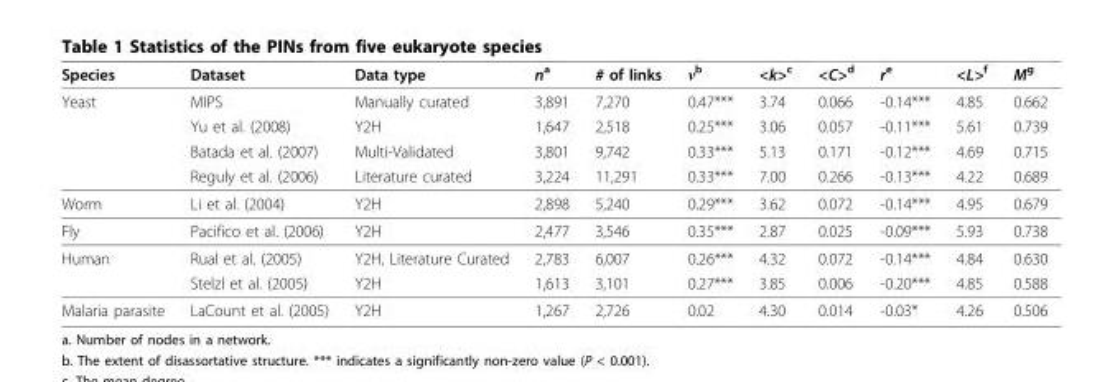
<table><thead><tr><td>Species</td><td>Dataset</td><td>Data type</td><td>n<sup>a</sup></td><td># of links</td><td>ν<sup>b</sup></td><td>&lt;k&gt;<sup>c</sup></td><td>&lt;C&gt;<sup>d</sup></td><td>r<sup>e</sup></td><td>&lt;L&gt;<sup>f</sup></td><td>M<sup>g</sup></td></tr></thead><tbody><tr><td rowspan="4">Yeast</td><td>MIPS</td><td>Manually curated</td><td>3,891</td><td>7,270</td><td>0.47***</td><td>3.74</td><td>0.066</td><td>-0.14***</td><td>4.85</td><td>0.662</td></tr><tr><td>Yu et al. (2008)</td><td>Y2H</td><td>1,647</td><td>2,518</td><td>0.25***</td><td>3.06</td><td>0.057</td><td>-0.11***</td><td>5.61</td><td>0.739</td></tr><tr><td>Batada et al. (2007)</td><td>Multi-Validated</td><td>3,801</td><td>9,742</td><td>0.33***</td><td>5.13</td><td>0.171</td><td>-0.12***</td><td>4.69</td><td>0.715</td></tr><tr><td>Reguly et al. (2006)</td><td>Literature curated</td><td>3,224</td><td>11,291</td><td>0.33***</td><td>7.00</td><td>0.266</td><td>-0.13***</td><td>4.22</td><td>0.689</td></tr><tr><td>Worm</td><td>Li et al. (2004)</td><td>Y2H</td><td>2,898</td><td>5,240</td><td>0.29***</td><td>3.62</td><td>0.072</td><td>-0.14***</td><td>4.95</td><td>0.679</td></tr><tr><td>Fly</td><td>Pacifico et al. (2006)</td><td>Y2H</td><td>2,477</td><td>3,546</td><td>0.35***</td><td>2.87</td><td>0.025</td><td>-0.09***</td><td>5.93</td><td>0.738</td></tr><tr><td rowspan="2">Human</td><td>Rual et al. (2005)</td><td>Y2H, Literature Curated</td><td>2,783</td><td>6,007</td><td>0.26***</td><td>4.32</td><td>0.072</td><td>-0.14***</td><td>4.84</td><td>0.630</td></tr><tr><td>Stelzl et al. (2005)</td><td>Y2H</td><td>1,613</td><td>3,101</td><td>0.27***</td><td>3.85</td><td>0.006</td><td>-0.20***</td><td>4.85</td><td>0.588</td></tr><tr><td>Malaria parasite</td><td>LaCount et al. (2005)</td><td>Y2H</td><td>1,267</td><td>2,726</td><td>0.02</td><td>4.30</td><td>0.014</td><td>-0.03*</td><td>4.26</td><td>0.506</td></tr></tbody></table>